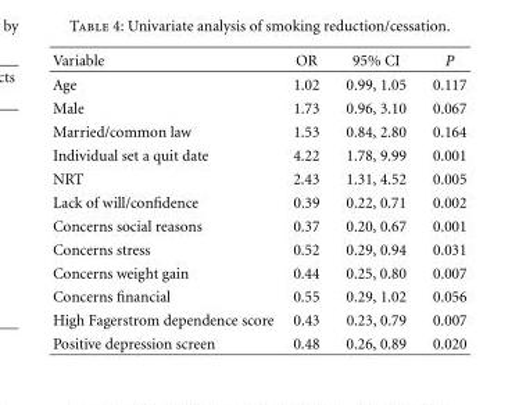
<table><thead><tr><td>Variable</td><td>OR</td><td>95% CI</td><td>P</td></tr></thead><tbody><tr><td>Age</td><td>1.02</td><td>0.99, 1.05</td><td>0.117</td></tr><tr><td>Male</td><td>1.73</td><td>0.96, 3.10</td><td>0.067</td></tr><tr><td>Married/common law</td><td>1.53</td><td>0.84, 2.80</td><td>0.164</td></tr><tr><td>Individual set a quit date</td><td>4.22</td><td>1.78, 9.99</td><td>0.001</td></tr><tr><td>NRT</td><td>2.43</td><td>1.31, 4.52</td><td>0.005</td></tr><tr><td>Lack of will/confidence</td><td>0.39</td><td>0.22, 0.71</td><td>0.002</td></tr><tr><td>Concerns social reasons</td><td>0.37</td><td>0.20, 0.67</td><td>0.001</td></tr><tr><td>Concerns stress</td><td>0.52</td><td>0.29, 0.94</td><td>0.031</td></tr><tr><td>Concerns weight gain</td><td>0.44</td><td>0.25, 0.80</td><td>0.007</td></tr><tr><td>Concerns financial</td><td>0.55</td><td>0.29, 1.02</td><td>0.056</td></tr><tr><td>High Fagerstrom dependence score</td><td>0.43</td><td>0.23, 0.79</td><td>0.007</td></tr><tr><td>Positive depression screen</td><td>0.48</td><td>0.26, 0.89</td><td>0.020</td></tr></tbody></table>